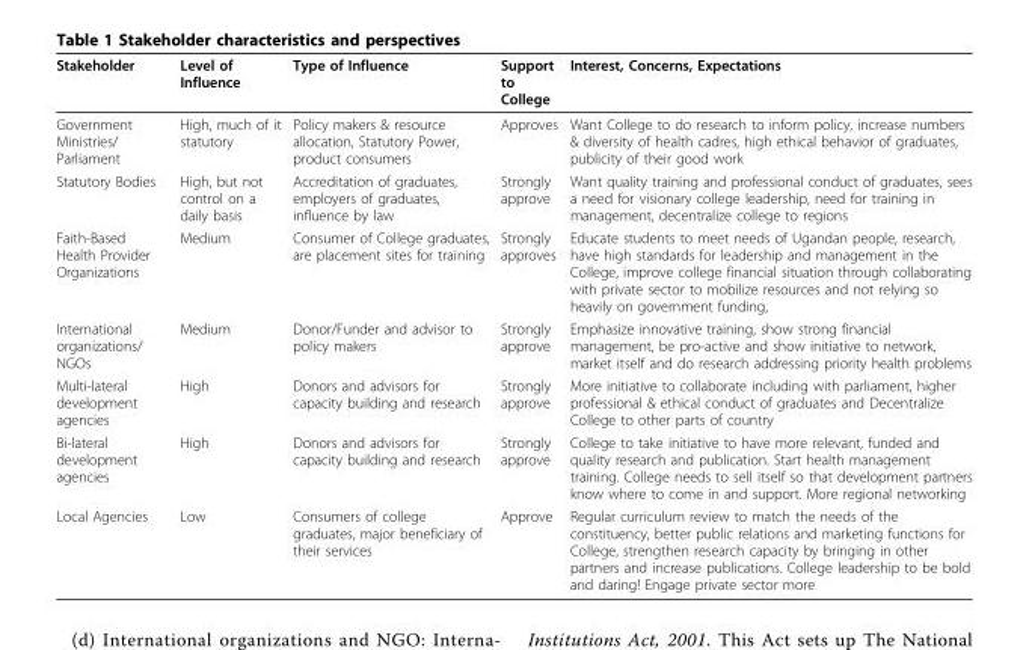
<table><thead><tr><td>Stakeholder</td><td>Level of Influence</td><td>Type of Influence</td><td>Support to College</td><td>Interest, Concerns, Expectations</td></tr></thead><tbody><tr><td>Government Ministries/ Parliament</td><td>High, much of it statutory</td><td>Policy makers &amp; resource allocation, Statutory Power, product consumers</td><td>Approves</td><td>Want College to do research to inform policy, increase numbers &amp; diversity of health cadres, high ethical behavior of graduates, publicity of their good work</td></tr><tr><td>Statutory Bodies</td><td>High, but not control on a daily basis</td><td>Accreditation of graduates, employers of graduates, influence by law</td><td>Strongly approve</td><td>Want quality training and professional conduct of graduates, sees a need for visionary college leadership, need for training in management, decentralize college to regions</td></tr><tr><td>Faith-Based Health Provider Organizations</td><td>Medium</td><td>Consumer of College graduates, are placement sites for training</td><td>Strongly approves</td><td>Educate students to meet needs of Ugandan people, research, have high standards for leadership and management in the College, improve college financial situation through collaborating with private sector to mobilize resources and not relying so heavily on government funding,</td></tr><tr><td>International organizations/ NGOs</td><td>Medium</td><td>Donor/Funder and advisor to policy makers</td><td>Strongly approve</td><td>Emphasize innovative training, show strong financial management, be pro-active and show initiative to network, market itself and do research addressing priority health problems</td></tr><tr><td>Multi-lateral development agencies</td><td>High</td><td>Donors and advisors for capacity building and research</td><td>Strongly approve</td><td>More initiative to collaborate including with parliament, higher professional &amp; ethical conduct of graduates and Decentralize College to other parts of country</td></tr><tr><td>Bi-lateral development agencies</td><td>High</td><td>Donors and advisors for capacity building and research</td><td>Strongly approve</td><td>College to take initiative to have more relevant, funded and quality research and publication. Start health management training. College needs to sell itself so that development partners know where to come in and support. More regional networking</td></tr><tr><td>Local Agencies</td><td>Low</td><td>Consumers of college graduates, major beneficiary of their services</td><td>Approve</td><td>Regular curriculum review to match the needs of the constituency, better public relations and marketing functions for College, strengthen research capacity by bringing in other partners and increase publications. College leadership to be bold and daring! Engage private sector more</td></tr></tbody></table>